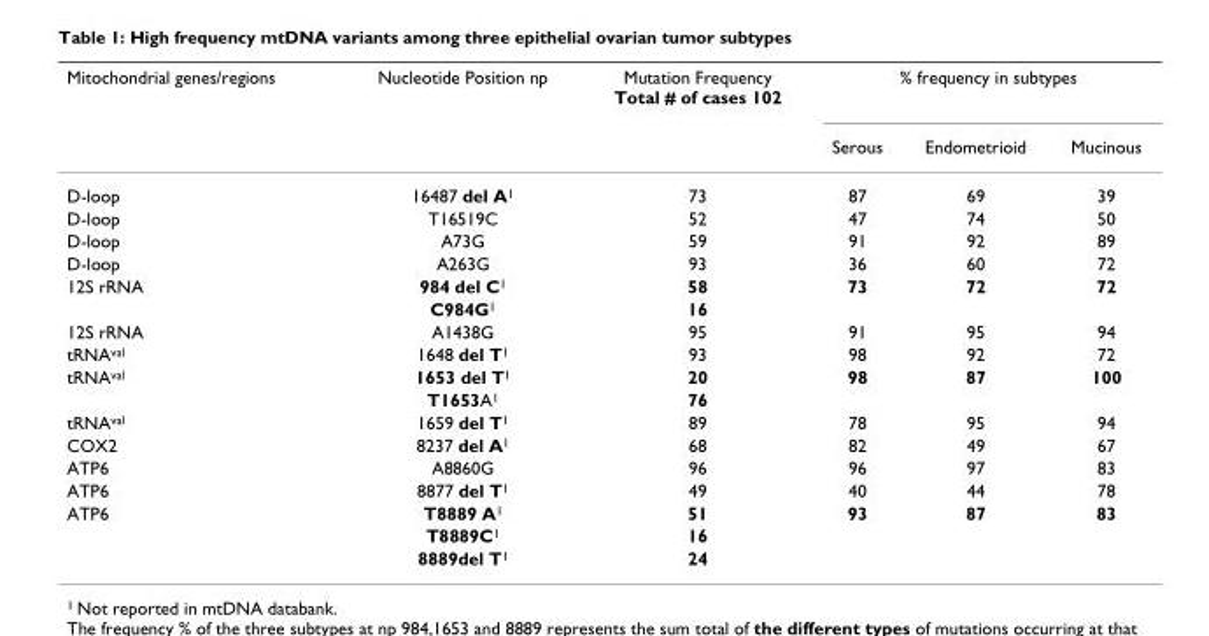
<table><thead><tr><td rowspan="2">Mitochondrial genes/regions</td><td rowspan="2">Nucleotide Position np</td><td rowspan="2">Mutation Frequency Total # of cases 102</td><td colspan="3">% frequency in subtypes</td></tr><tr><td>Serous</td><td>Endometrioid</td><td>Mucinous</td></tr></thead><tbody><tr><td>D-loop</td><td>16487 del A<sup>1</sup></td><td>73</td><td>87</td><td>69</td><td>39</td></tr><tr><td>D-loop</td><td>T16519C</td><td>52</td><td>47</td><td>74</td><td>50</td></tr><tr><td>D-loop</td><td>A73G</td><td>59</td><td>91</td><td>92</td><td>89</td></tr><tr><td>D-loop</td><td>A263G</td><td>93</td><td>36</td><td>60</td><td>72</td></tr><tr><td rowspan="2">12S rRNA</td><td>984 del C<sup>1</sup></td><td>58</td><td>73</td><td>72</td><td>72</td></tr><tr><td>C984G<sup>1</sup></td><td>16</td><td></td><td></td><td></td></tr><tr><td>12S rRNA</td><td>A1438G</td><td>95</td><td>91</td><td>95</td><td>94</td></tr><tr><td>tRNA<sup>val</sup></td><td>1648 del T<sup>1</sup></td><td>93</td><td>98</td><td>92</td><td>72</td></tr><tr><td rowspan="2">tRNA<sup>val</sup></td><td>1653 del T<sup>1</sup></td><td>20</td><td>98</td><td>87</td><td>100</td></tr><tr><td>T1653A<sup>1</sup></td><td>76</td><td></td><td></td><td></td></tr><tr><td>tRNA<sup>val</sup></td><td>1659 del T<sup>1</sup></td><td>89</td><td>78</td><td>95</td><td>94</td></tr><tr><td>COX2</td><td>8237 del A<sup>1</sup></td><td>68</td><td>82</td><td>49</td><td>67</td></tr><tr><td>ATP6</td><td>A8860G</td><td>96</td><td>96</td><td>97</td><td>83</td></tr><tr><td>ATP6</td><td>8877 del T<sup>1</sup></td><td>49</td><td>40</td><td>44</td><td>78</td></tr><tr><td rowspan="3">ATP6</td><td>T8889 A<sup>1</sup></td><td>51</td><td>93</td><td>87</td><td>83</td></tr><tr><td>T8889C<sup>1</sup></td><td>16</td><td></td><td></td><td></td></tr><tr><td>8889del T<sup>1</sup></td><td>24</td><td></td><td></td><td></td></tr></tbody></table>